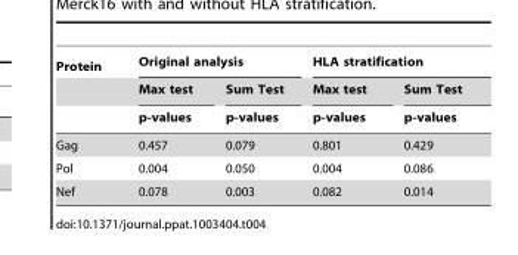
<table><thead><tr><td rowspan="3">Protein</td><td colspan="2">Original analysis</td><td colspan="2">HLA stratification</td></tr><tr><td rowspan="2">Max test p-values</td><td rowspan="2">Sum Test p-values</td><td rowspan="2">Max test p-values</td><td rowspan="2">Sum Test p-values</td></tr><tr></tr></thead><tbody><tr><td>Gag</td><td>0.457</td><td>0.079</td><td>0.801</td><td>0.429</td></tr><tr><td>Pol</td><td>0.004</td><td>0.050</td><td>0.004</td><td>0.086</td></tr><tr><td>Nef</td><td>0.078</td><td>0.003</td><td>0.082</td><td>0.014</td></tr></tbody></table>